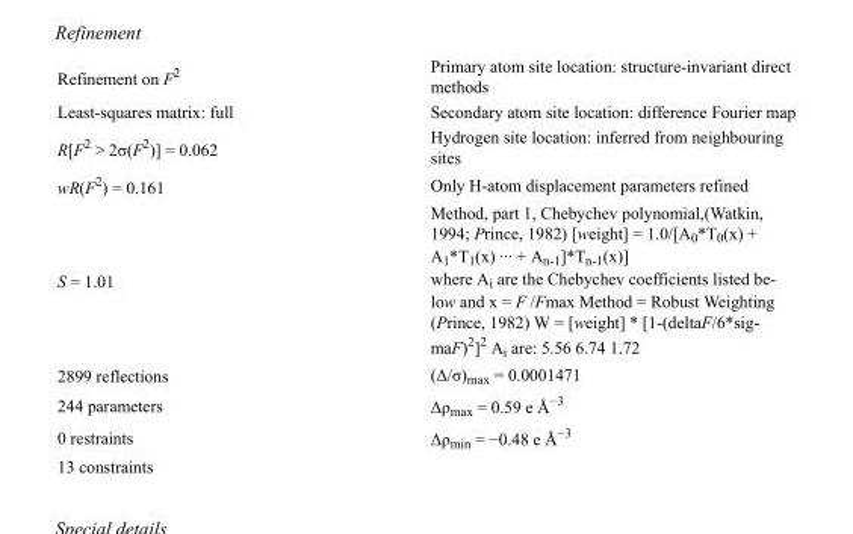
<table><tbody><tr><td>Refinement on F<sup>2</sup></td><td>Primary atom site location: structure-invariant direct methods</td></tr><tr><td>Least-squares matrix: full</td><td>Secondary atom site location: difference Fourier map</td></tr><tr><td>R[F<sup>2</sup> &gt; 2σ(F<sup>2</sup>)] = 0.062</td><td>Hydrogen site location: inferred from neighbouring sites</td></tr><tr><td>wR(F<sup>2</sup>) = 0.161</td><td>Only H-atom displacement parameters refined</td></tr><tr><td>S = 1.01</td><td>Method, part 1, Chebychev polynomial,(Watkin, 1994; Prince, 1982) [weight] = 1.0/[A0*T0(x) + A1*T1(x) ··· + An-1]*Tn-1(x)] where Ai are the Chebychev coefficients listed be- low and x = F /Fmax Method = Robust Weighting (Prince, 1982) W = [weight] * [1-(deltaF/6*sig- maF)2]2 Ai are: 5.56 6.74 1.72</td></tr><tr><td>2899 reflections</td><td>(Δ/σ)<sub>max</sub> = 0.0001471</td></tr><tr><td>244 parameters</td><td>Δρ<sub>max</sub> = 0.59 e Å<sup>−3</sup></td></tr><tr><td>0 restraints</td><td>Δρ<sub>min</sub> = −0.48 e Å<sup>−3</sup></td></tr><tr><td>13 constraints</td><td></td></tr></tbody></table>